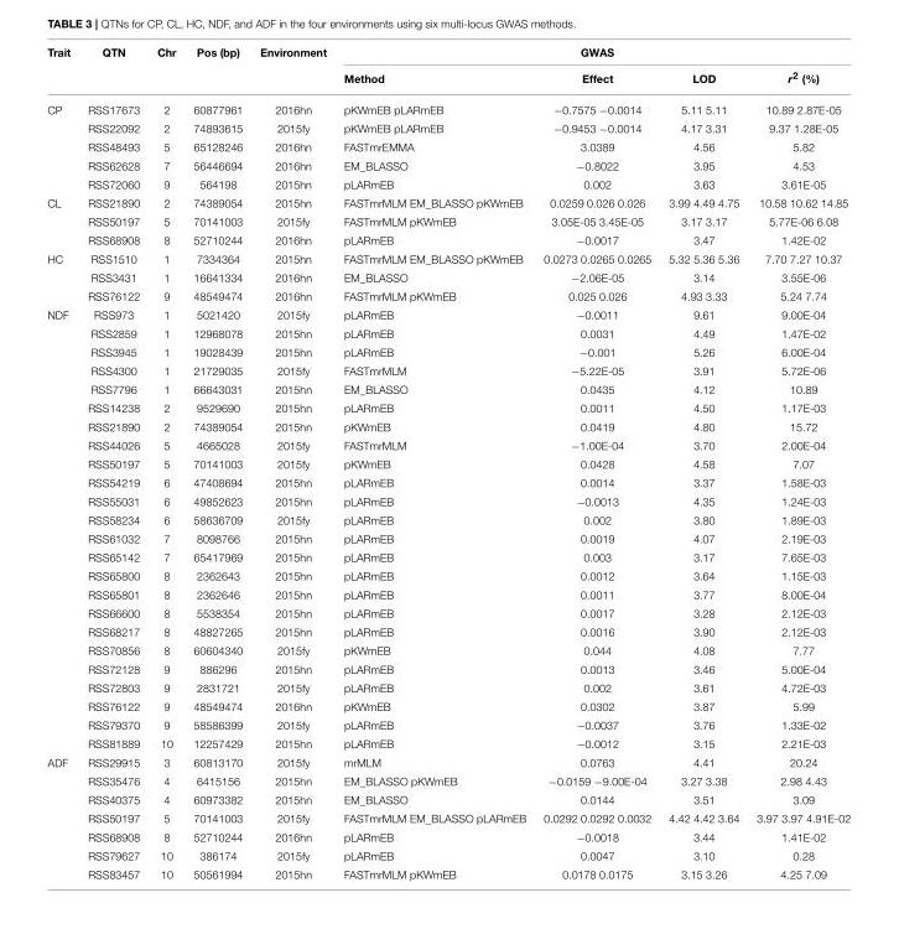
<table><thead><tr><td rowspan="2">Trait</td><td rowspan="2">QTN</td><td rowspan="2">Chr</td><td rowspan="2">Pos (bp)</td><td rowspan="2">Environment</td><td colspan="4">GWAS</td></tr><tr><td>Method</td><td>Effect</td><td>LOD</td><td>r<sup>2</sup> (%)</td></tr></thead><tbody><tr><td rowspan="5">CP</td><td>RSS17673</td><td>2</td><td>60877961</td><td>2016hn</td><td>pKWmEB pLARmEB</td><td>−0.7575 −0.0014</td><td>5.11 5.11</td><td>10.89 2.87E-05</td></tr><tr><td>RSS22092</td><td>2</td><td>74893615</td><td>2015fy</td><td>pKWmEB pLARmEB</td><td>−0.9453 −0.0014</td><td>4.17 3.31</td><td>9.37 1.28E-05</td></tr><tr><td>RSS48493</td><td>5</td><td>65128246</td><td>2016hn</td><td>FASTmrEMMA</td><td>3.0389</td><td>4.56</td><td>5.82</td></tr><tr><td>RSS62628</td><td>7</td><td>56446694</td><td>2016hn</td><td>EM_BLASSO</td><td>−0.8022</td><td>3.95</td><td>4.53</td></tr><tr><td>RSS72060</td><td>9</td><td>564198</td><td>2015hn</td><td>pLARmEB</td><td>0.002</td><td>3.63</td><td>3.61E-05</td></tr><tr><td rowspan="3">CL</td><td>RSS21890</td><td>2</td><td>74389054</td><td>2015hn</td><td>FASTmrMLM EM_BLASSO pKWmEB</td><td>0.0259 0.026 0.026</td><td>3.99 4.49 4.75</td><td>10.58 10.62 14.85</td></tr><tr><td>RSS50197</td><td>5</td><td>70141003</td><td>2015fy</td><td>FASTmrMLM pKWmEB</td><td>3.05E-05 3.45E-05</td><td>3.17 3.17</td><td>5.77E-06 6.08</td></tr><tr><td>RSS68908</td><td>8</td><td>52710244</td><td>2016hn</td><td>pLARmEB</td><td>−0.0017</td><td>3.47</td><td>1.42E-02</td></tr><tr><td rowspan="3">HC</td><td>RSS1510</td><td>1</td><td>7334364</td><td>2015hn</td><td>FASTmrMLM EM_BLASSO pKWmEB</td><td>0.0273 0.0265 0.0265</td><td>5.32 5.36 5.36</td><td>7.70 7.27 10.37</td></tr><tr><td>RSS3431</td><td>1</td><td>16641334</td><td>2016hn</td><td>EM_BLASSO</td><td>−2.06E-05</td><td>3.14</td><td>3.55E-06</td></tr><tr><td>RSS76122</td><td>9</td><td>48549474</td><td>2016hn</td><td>FASTmrMLM pKWmEB</td><td>0.025 0.026</td><td>4.93 3.33</td><td>5.24 7.74</td></tr><tr><td rowspan="24">NDF</td><td>RSS973</td><td>1</td><td>5021420</td><td>2015fy</td><td>pLARmEB</td><td>−0.0011</td><td>9.61</td><td>9.00E-04</td></tr><tr><td>RSS2859</td><td>1</td><td>12968078</td><td>2015hn</td><td>pLARmEB</td><td>0.0031</td><td>4.49</td><td>1.47E-02</td></tr><tr><td>RSS3945</td><td>1</td><td>19028439</td><td>2015hn</td><td>pLARmEB</td><td>−0.001</td><td>5.26</td><td>6.00E-04</td></tr><tr><td>RSS4300</td><td>1</td><td>21729035</td><td>2015fy</td><td>FASTmrMLM</td><td>−5.22E-05</td><td>3.91</td><td>5.72E-06</td></tr><tr><td>RSS7796</td><td>1</td><td>66643031</td><td>2015hn</td><td>EM_BLASSO</td><td>0.0435</td><td>4.12</td><td>10.89</td></tr><tr><td>RSS14238</td><td>2</td><td>9529690</td><td>2015hn</td><td>pLARmEB</td><td>0.0011</td><td>4.50</td><td>1.17E-03</td></tr><tr><td>RSS21890</td><td>2</td><td>74389054</td><td>2015hn</td><td>pKWmEB</td><td>0.0419</td><td>4.80</td><td>15.72</td></tr><tr><td>RSS44026</td><td>5</td><td>4665028</td><td>2015fy</td><td>FASTmrMLM</td><td>−1.00E-04</td><td>3.70</td><td>2.00E-04</td></tr><tr><td>RSS50197</td><td>5</td><td>70141003</td><td>2015fy</td><td>pKWmEB</td><td>0.0428</td><td>4.58</td><td>7.07</td></tr><tr><td>RSS54219</td><td>6</td><td>47408694</td><td>2015hn</td><td>pLARmEB</td><td>0.0014</td><td>3.37</td><td>1.58E-03</td></tr><tr><td>RSS55031</td><td>6</td><td>49852623</td><td>2015hn</td><td>pLARmEB</td><td>−0.0013</td><td>4.35</td><td>1.24E-03</td></tr><tr><td>RSS58234</td><td>6</td><td>58636709</td><td>2015fy</td><td>pLARmEB</td><td>0.002</td><td>3.80</td><td>1.89E-03</td></tr><tr><td>RSS61032</td><td>7</td><td>8098766</td><td>2015hn</td><td>pLARmEB</td><td>0.0019</td><td>4.07</td><td>2.19E-03</td></tr><tr><td>RSS65142</td><td>7</td><td>65417969</td><td>2015hn</td><td>pLARmEB</td><td>0.003</td><td>3.17</td><td>7.65E-03</td></tr><tr><td>RSS65800</td><td>8</td><td>2362643</td><td>2015hn</td><td>pLARmEB</td><td>0.0012</td><td>3.64</td><td>1.15E-03</td></tr><tr><td>RSS65801</td><td>8</td><td>2362646</td><td>2015hn</td><td>pLARmEB</td><td>0.0011</td><td>3.77</td><td>8.00E-04</td></tr><tr><td>RSS66600</td><td>8</td><td>5538354</td><td>2015hn</td><td>pLARmEB</td><td>0.0017</td><td>3.28</td><td>2.12E-03</td></tr><tr><td>RSS68217</td><td>8</td><td>48827265</td><td>2015hn</td><td>pLARmEB</td><td>0.0016</td><td>3.90</td><td>2.12E-03</td></tr><tr><td>RSS70856</td><td>8</td><td>60604340</td><td>2015fy</td><td>pKWmEB</td><td>0.044</td><td>4.08</td><td>7.77</td></tr><tr><td>RSS72128</td><td>9</td><td>886296</td><td>2015hn</td><td>pLARmEB</td><td>0.0013</td><td>3.46</td><td>5.00E-04</td></tr><tr><td>RSS72803</td><td>9</td><td>2831721</td><td>2015fy</td><td>pLARmEB</td><td>0.002</td><td>3.61</td><td>4.72E-03</td></tr><tr><td>RSS76122</td><td>9</td><td>48549474</td><td>2016hn</td><td>pKWmEB</td><td>0.0302</td><td>3.87</td><td>5.99</td></tr><tr><td>RSS79370</td><td>9</td><td>58586399</td><td>2015fy</td><td>pLARmEB</td><td>−0.0037</td><td>3.76</td><td>1.33E-02</td></tr><tr><td>RSS81889</td><td>10</td><td>12257429</td><td>2015hn</td><td>pLARmEB</td><td>−0.0012</td><td>3.15</td><td>2.21E-03</td></tr><tr><td rowspan="7">ADF</td><td>RSS29915</td><td>3</td><td>60813170</td><td>2015fy</td><td>mrMLM</td><td>0.0763</td><td>4.41</td><td>20.24</td></tr><tr><td>RSS35476</td><td>4</td><td>6415156</td><td>2015hn</td><td>EM_BLASSO pKWmEB</td><td>−0.0159 −9.00E-04</td><td>3.27 3.38</td><td>2.98 4.43</td></tr><tr><td>RSS40375</td><td>4</td><td>60973382</td><td>2015hn</td><td>EM_BLASSO</td><td>0.0144</td><td>3.51</td><td>3.09</td></tr><tr><td>RSS50197</td><td>5</td><td>70141003</td><td>2015fy</td><td>FASTmrMLM EM_BLASSO pLARmEB</td><td>0.0292 0.0292 0.0032</td><td>4.42 4.42 3.64</td><td>3.97 3.97 4.91E-02</td></tr><tr><td>RSS68908</td><td>8</td><td>52710244</td><td>2016hn</td><td>pLARmEB</td><td>−0.0018</td><td>3.44</td><td>1.41E-02</td></tr><tr><td>RSS79627</td><td>10</td><td>386174</td><td>2015fy</td><td>pLARmEB</td><td>0.0047</td><td>3.10</td><td>0.28</td></tr><tr><td>RSS83457</td><td>10</td><td>50561994</td><td>2015hn</td><td>FASTmrMLM pKWmEB</td><td>0.0178 0.0175</td><td>3.15 3.26</td><td>4.25 7.09</td></tr></tbody></table>